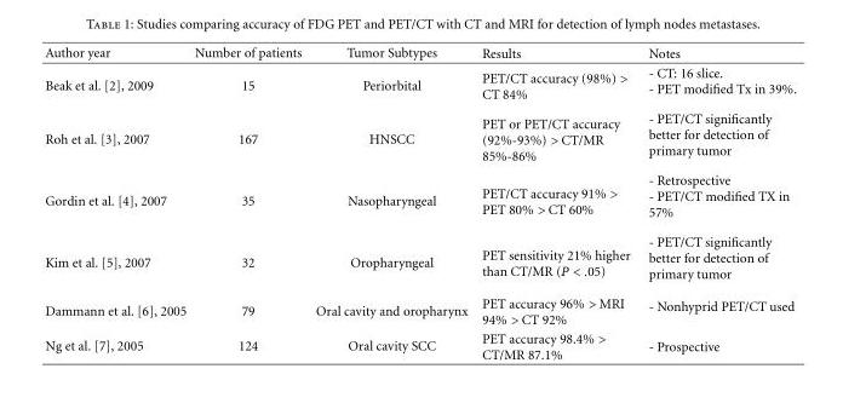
<table><thead><tr><td>Author year</td><td>Number of patients</td><td>Tumor Subtypes</td><td>Results</td><td>Notes</td></tr></thead><tbody><tr><td>Beak et al. [2], 2009</td><td>15</td><td>Periorbital</td><td>PET/CT accuracy (98%) &gt; CT 84%</td><td>- CT: 16 slice. - PET modified Tx in 39%.</td></tr><tr><td>Roh et al. [3], 2007</td><td>167</td><td>HNSCC</td><td>PET or PET/CT accuracy (92%-93%) &gt; CT/MR 85%-86%</td><td>- PET/CT significantly better for detection of primary tumor</td></tr><tr><td>Gordin et al. [4], 2007</td><td>35</td><td>Nasopharyngeal</td><td>PET/CT accuracy 91% &gt; PET 80% &gt; CT 60%</td><td>- Retrospective - PET/CT modified TX in 57%</td></tr><tr><td>Kim et al. [5], 2007</td><td>32</td><td>Oropharyngeal</td><td>PET sensitivity 21% higher than CT/MR (P &lt; .05)</td><td>- PET/CT significantly better for detection of primary tumor</td></tr><tr><td>Dammann et al. [6], 2005</td><td>79</td><td>Oral cavity and oropharynx</td><td>PET accuracy 96% &gt; MRI 94% &gt; CT 92%</td><td>- Nonhyprid PET/CT used</td></tr><tr><td>Ng et al. [7], 2005</td><td>124</td><td>Oral cavity SCC</td><td>PET accuracy 98.4% &gt; CT/MR 87.1%</td><td>- Prospective</td></tr></tbody></table>